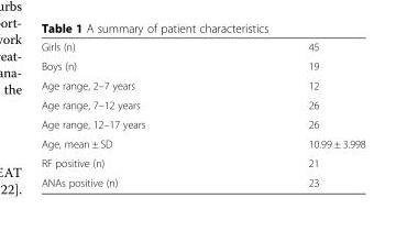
<table><tbody><tr><td>Girls (n)</td><td>45</td></tr><tr><td>Boys (n)</td><td>19</td></tr><tr><td>Age range, 2–7 years</td><td>12</td></tr><tr><td>Age range, 7–12 years</td><td>26</td></tr><tr><td>Age range, 12–17 years</td><td>26</td></tr><tr><td>Age, mean ± SD</td><td>10.99 ± 3.998</td></tr><tr><td>RF positive (n)</td><td>21</td></tr><tr><td>ANAs positive (n)</td><td>23</td></tr></tbody></table>